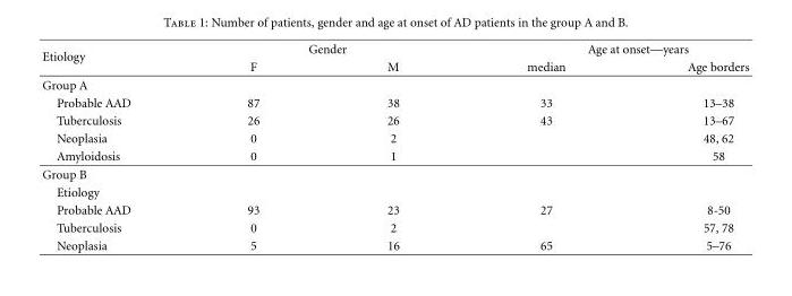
<table><thead><tr><td rowspan="2">Etiology</td><td colspan="2">Gender</td><td colspan="2">Age at onset—years</td></tr><tr><td>F</td><td>M</td><td>median</td><td>Age borders</td></tr></thead><tbody><tr><td colspan="5">Group A</td></tr><tr><td>Probable AAD</td><td>87</td><td>38</td><td>33</td><td>13–38</td></tr><tr><td>Tuberculosis</td><td>26</td><td>26</td><td>43</td><td>13–67</td></tr><tr><td>Neoplasia</td><td>0</td><td>2</td><td></td><td>48, 62</td></tr><tr><td>Amyloidosis</td><td>0</td><td>1</td><td></td><td>58</td></tr><tr><td colspan="5">Group B</td></tr><tr><td colspan="5">Etiology</td></tr><tr><td>Probable AAD</td><td>93</td><td>23</td><td>27</td><td>8-50</td></tr><tr><td>Tuberculosis</td><td>0</td><td>2</td><td></td><td>57, 78</td></tr><tr><td>Neoplasia</td><td>5</td><td>16</td><td>65</td><td>5–76</td></tr></tbody></table>